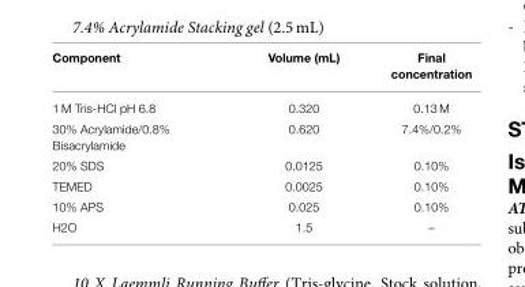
<table><thead><tr><td>Component</td><td>Volume (mL)</td><td>Final concentration</td></tr></thead><tbody><tr><td>1 M Tris-HCl pH 6.8</td><td>0.320</td><td>0.13 M</td></tr><tr><td>30% Acrylamide/0.8% Bisacrylamide</td><td>0.620</td><td>7.4%/0.2%</td></tr><tr><td>20% SDS</td><td>0.0125</td><td>0.10%</td></tr><tr><td>TEMED</td><td>0.0025</td><td>0.10%</td></tr><tr><td>10% APS</td><td>0.025</td><td>0.10%</td></tr><tr><td>H2O</td><td>1.5</td><td>–</td></tr></tbody></table>